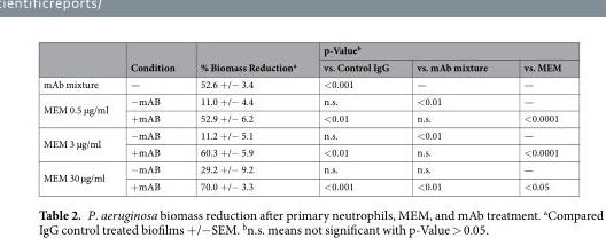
<table><thead><tr><td rowspan="2"></td><td rowspan="2">Condition</td><td rowspan="2">% Biomass Reduction<sup>a</sup></td><td colspan="3">p-Value<sup>b</sup></td></tr><tr><td>vs. Control IgG</td><td>vs. mAb mixture</td><td>vs. MEM</td></tr></thead><tbody><tr><td>mAb mixture</td><td>—</td><td>52.6 +/− 3.4</td><td>&lt;0.001</td><td>—</td><td>—</td></tr><tr><td rowspan="2">MEM 0.5 µg/ml</td><td>−mAB</td><td>11.0 +/− 4.4</td><td>n.s.</td><td>&lt;0.01</td><td>—</td></tr><tr><td>+mAB</td><td>52.9 +/− 6.2</td><td>&lt;0.01</td><td>n.s.</td><td>&lt;0.0001</td></tr><tr><td rowspan="2">MEM 3 µg/ml</td><td>−mAB</td><td>11.2 +/− 5.1</td><td>n.s.</td><td>&lt;0.01</td><td>—</td></tr><tr><td>+mAB</td><td>60.3 +/− 5.9</td><td>&lt;0.01</td><td>n.s.</td><td>&lt;0.0001</td></tr><tr><td rowspan="2">MEM 30 µg/ml</td><td>−mAB</td><td>29.2 +/− 9.2</td><td>n.s.</td><td>n.s.</td><td>—</td></tr><tr><td>+mAB</td><td>70.0 +/− 3.3</td><td>&lt;0.001</td><td>&lt;0.01</td><td>&lt;0.05</td></tr></tbody></table>